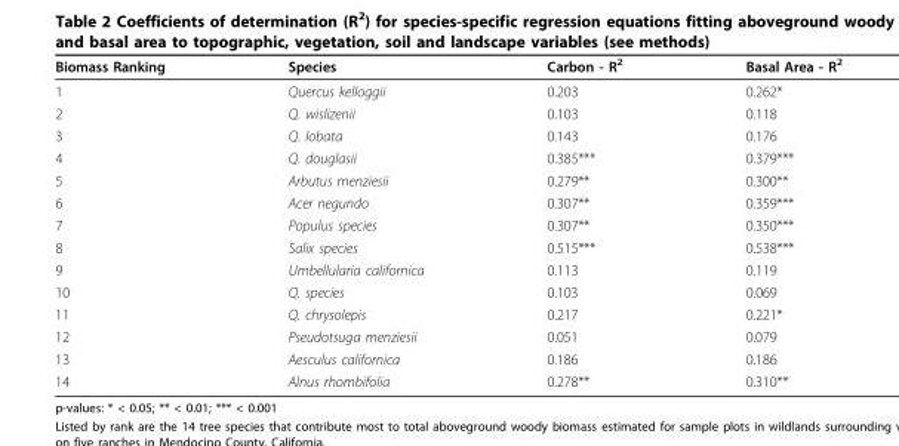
<table><thead><tr><td>Biomass Ranking</td><td>Species</td><td>Carbon - R<sup>2</sup></td><td>Basal Area - R<sup>2</sup></td></tr></thead><tbody><tr><td>1</td><td>Quercus kelloggii</td><td>0.203</td><td>0.262*</td></tr><tr><td>2</td><td>Q. wislizenii</td><td>0.103</td><td>0.118</td></tr><tr><td>3</td><td>Q. lobata</td><td>0.143</td><td>0.176</td></tr><tr><td>4</td><td>Q. douglasii</td><td>0.385***</td><td>0.379***</td></tr><tr><td>5</td><td>Arbutus menziesii</td><td>0.279**</td><td>0.300**</td></tr><tr><td>6</td><td>Acer negundo</td><td>0.307**</td><td>0.359***</td></tr><tr><td>7</td><td>Populus species</td><td>0.307**</td><td>0.350***</td></tr><tr><td>8</td><td>Salix species</td><td>0.515***</td><td>0.538***</td></tr><tr><td>9</td><td>Umbellularia californica</td><td>0.113</td><td>0.119</td></tr><tr><td>10</td><td>Q. species</td><td>0.103</td><td>0.069</td></tr><tr><td>11</td><td>Q. chrysolepis</td><td>0.217</td><td>0.221*</td></tr><tr><td>12</td><td>Pseudotsuga menziesii</td><td>0.051</td><td>0.079</td></tr><tr><td>13</td><td>Aesculus californica</td><td>0.186</td><td>0.186</td></tr><tr><td>14</td><td>Alnus rhombifolia</td><td>0.278**</td><td>0.310**</td></tr></tbody></table>